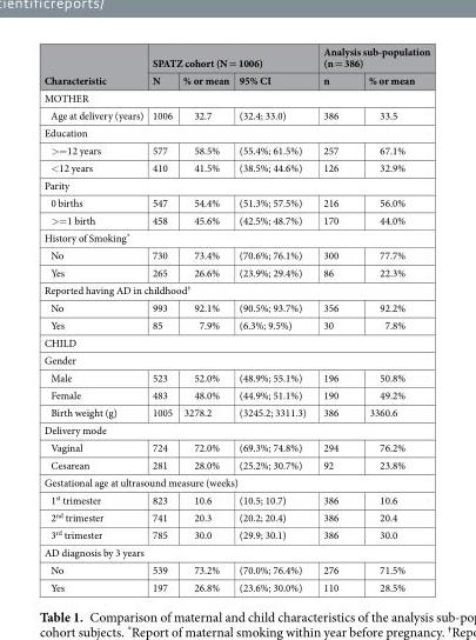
<table><thead><tr><td rowspan="2">Characteristic</td><td colspan="3">SPATZ cohort (N = 1006)</td><td colspan="2">Analysis sub-population (n = 386)</td></tr><tr><td>N</td><td>% or mean</td><td>95% CI</td><td>n</td><td>% or mean</td></tr></thead><tbody><tr><td colspan="6">MOTHER</td></tr><tr><td>Age at delivery (years)</td><td>1006</td><td>32.7</td><td>(32.4; 33.0)</td><td>386</td><td>33.5</td></tr><tr><td colspan="6">Education</td></tr><tr><td>&gt;=12 years</td><td>577</td><td>58.5%</td><td>(55.4%; 61.5%)</td><td>257</td><td>67.1%</td></tr><tr><td>&lt;12 years</td><td>410</td><td>41.5%</td><td>(38.5%; 44.6%)</td><td>126</td><td>32.9%</td></tr><tr><td colspan="6">Parity</td></tr><tr><td>0 births</td><td>547</td><td>54.4%</td><td>(51.3%; 57.5%)</td><td>216</td><td>56.0%</td></tr><tr><td>&gt;=1 birth</td><td>458</td><td>45.6%</td><td>(42.5%; 48.7%)</td><td>170</td><td>44.0%</td></tr><tr><td colspan="6">History of Smoking*</td></tr><tr><td>No</td><td>730</td><td>73.4%</td><td>(70.6%; 76.1%)</td><td>300</td><td>77.7%</td></tr><tr><td>Yes</td><td>265</td><td>26.6%</td><td>(23.9%; 29.4%)</td><td>86</td><td>22.3%</td></tr><tr><td colspan="6">Reported having AD in childhood<sup>†</sup></td></tr><tr><td>No</td><td>993</td><td>92.1%</td><td>(90.5%; 93.7%)</td><td>356</td><td>92.2%</td></tr><tr><td>Yes</td><td>85</td><td>7.9%</td><td>(6.3%; 9.5%)</td><td>30</td><td>7.8%</td></tr><tr><td colspan="6">CHILD</td></tr><tr><td colspan="6">Gender</td></tr><tr><td>Male</td><td>523</td><td>52.0%</td><td>(48.9%; 55.1%)</td><td>196</td><td>50.8%</td></tr><tr><td>Female</td><td>483</td><td>48.0%</td><td>(44.9%; 51.1%)</td><td>190</td><td>49.2%</td></tr><tr><td>Birth weight (g)</td><td>1005</td><td>3278.2</td><td>(3245.2; 3311.3)</td><td>386</td><td>3360.6</td></tr><tr><td colspan="6">Delivery mode</td></tr><tr><td>Vaginal</td><td>724</td><td>72.0%</td><td>(69.3%; 74.8%)</td><td>294</td><td>76.2%</td></tr><tr><td>Cesarean</td><td>281</td><td>28.0%</td><td>(25.2%; 30.7%)</td><td>92</td><td>23.8%</td></tr><tr><td colspan="6">Gestational age at ultrasound measure (weeks)</td></tr><tr><td>1<sup>st</sup> trimester</td><td>823</td><td>10.6</td><td>(10.5; 10.7)</td><td>386</td><td>10.6</td></tr><tr><td>2<sup>nd</sup> trimester</td><td>741</td><td>20.3</td><td>(20.2; 20.4)</td><td>386</td><td>20.4</td></tr><tr><td>3<sup>rd</sup> trimester</td><td>785</td><td>30.0</td><td>(29.9; 30.1)</td><td>386</td><td>30.0</td></tr><tr><td colspan="6">AD diagnosis by 3 years</td></tr><tr><td>No</td><td>539</td><td>73.2%</td><td>(70.0%; 76.4%)</td><td>276</td><td>71.5%</td></tr><tr><td>Yes</td><td>197</td><td>26.8%</td><td>(23.6%; 30.0%)</td><td>110</td><td>28.5%</td></tr></tbody></table>